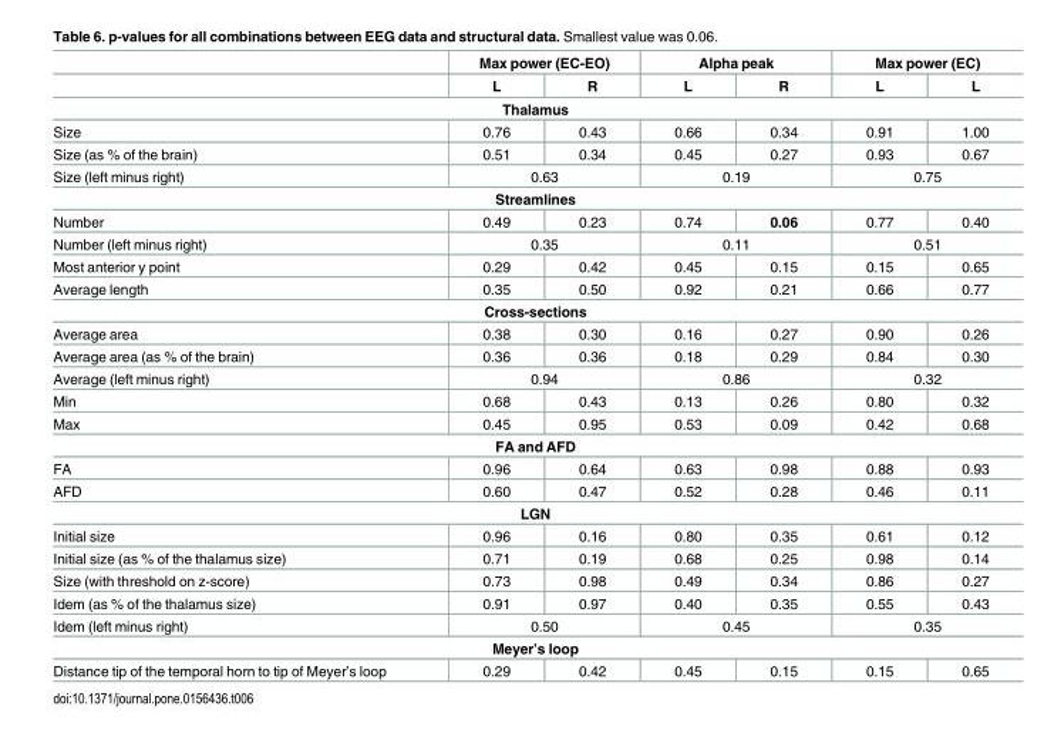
<table><thead><tr><td rowspan="2"></td><td colspan="2">Max power (EC-EO)</td><td colspan="2">Alpha peak</td><td colspan="2">Max power (EC)</td></tr><tr><td>L</td><td>R</td><td>L</td><td>R</td><td>L</td><td>L</td></tr></thead><tbody><tr><td colspan="7">Thalamus</td></tr><tr><td>Size</td><td>0.76</td><td>0.43</td><td>0.66</td><td>0.34</td><td>0.91</td><td>1.00</td></tr><tr><td>Size (as % of the brain)</td><td>0.51</td><td>0.34</td><td>0.45</td><td>0.27</td><td>0.93</td><td>0.67</td></tr><tr><td>Size (left minus right)</td><td colspan="2">0.63</td><td colspan="2">0.19</td><td colspan="2">0.75</td></tr><tr><td colspan="7">Streamlines</td></tr><tr><td>Number</td><td>0.49</td><td>0.23</td><td>0.74</td><td>0.06</td><td>0.77</td><td>0.40</td></tr><tr><td>Number (left minus right)</td><td colspan="2">0.35</td><td colspan="2">0.11</td><td colspan="2">0.51</td></tr><tr><td>Most anterior y point</td><td>0.29</td><td>0.42</td><td>0.45</td><td>0.15</td><td>0.15</td><td>0.65</td></tr><tr><td>Average length</td><td>0.35</td><td>0.50</td><td>0.92</td><td>0.21</td><td>0.66</td><td>0.77</td></tr><tr><td colspan="7">Cross-sections</td></tr><tr><td>Average area</td><td>0.38</td><td>0.30</td><td>0.16</td><td>0.27</td><td>0.90</td><td>0.26</td></tr><tr><td>Average area (as % of the brain)</td><td>0.36</td><td>0.36</td><td>0.18</td><td>0.29</td><td>0.84</td><td>0.30</td></tr><tr><td>Average (left minus right)</td><td colspan="2">0.94</td><td colspan="2">0.86</td><td colspan="2">0.32</td></tr><tr><td>Min</td><td>0.68</td><td>0.43</td><td>0.13</td><td>0.26</td><td>0.80</td><td>0.32</td></tr><tr><td>Max</td><td>0.45</td><td>0.95</td><td>0.53</td><td>0.09</td><td>0.42</td><td>0.68</td></tr><tr><td colspan="7">FA and AFD</td></tr><tr><td>FA</td><td>0.96</td><td>0.64</td><td>0.63</td><td>0.98</td><td>0.88</td><td>0.93</td></tr><tr><td>AFD</td><td>0.60</td><td>0.47</td><td>0.52</td><td>0.28</td><td>0.46</td><td>0.11</td></tr><tr><td colspan="7">LGN</td></tr><tr><td>Initial size</td><td>0.96</td><td>0.16</td><td>0.80</td><td>0.35</td><td>0.61</td><td>0.12</td></tr><tr><td>Initial size (as % of the thalamus size)</td><td>0.71</td><td>0.19</td><td>0.68</td><td>0.25</td><td>0.98</td><td>0.14</td></tr><tr><td>Size (with threshold on z-score)</td><td>0.73</td><td>0.98</td><td>0.49</td><td>0.34</td><td>0.86</td><td>0.27</td></tr><tr><td>Idem (as % of the thalamus size)</td><td>0.91</td><td>0.97</td><td>0.40</td><td>0.35</td><td>0.55</td><td>0.43</td></tr><tr><td>Idem (left minus right)</td><td colspan="2">0.50</td><td colspan="2">0.45</td><td colspan="2">0.35</td></tr><tr><td colspan="7">Meyer’s loop</td></tr><tr><td>Distance tip of the temporal horn to tip of Meyer’s loop</td><td>0.29</td><td>0.42</td><td>0.45</td><td>0.15</td><td>0.15</td><td>0.65</td></tr></tbody></table>